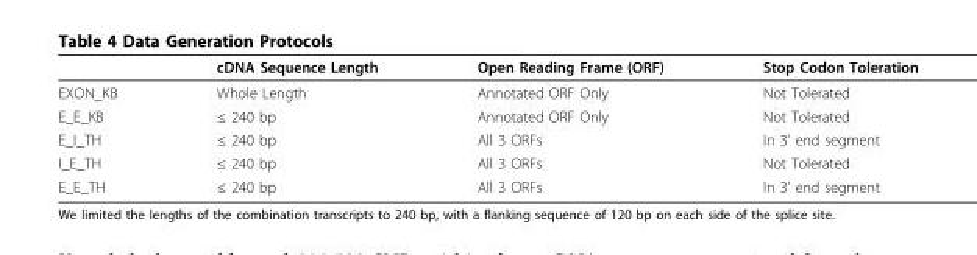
<table><thead><tr><td></td><td>cDNA Sequence Length</td><td>Open Reading Frame (ORF)</td><td>Stop Codon Toleration</td></tr></thead><tbody><tr><td>EXON_KB</td><td>Whole Length</td><td>Annotated ORF Only</td><td>Not Tolerated</td></tr><tr><td>E_E_KB</td><td>≤ 240 bp</td><td>Annotated ORF Only</td><td>Not Tolerated</td></tr><tr><td>E_I_TH</td><td>≤ 240 bp</td><td>All 3 ORFs</td><td>In 3’ end segment</td></tr><tr><td>I_E_TH</td><td>≤ 240 bp</td><td>All 3 ORFs</td><td>Not Tolerated</td></tr><tr><td>E_E_TH</td><td>≤ 240 bp</td><td>All 3 ORFs</td><td>In 3’ end segment</td></tr></tbody></table>